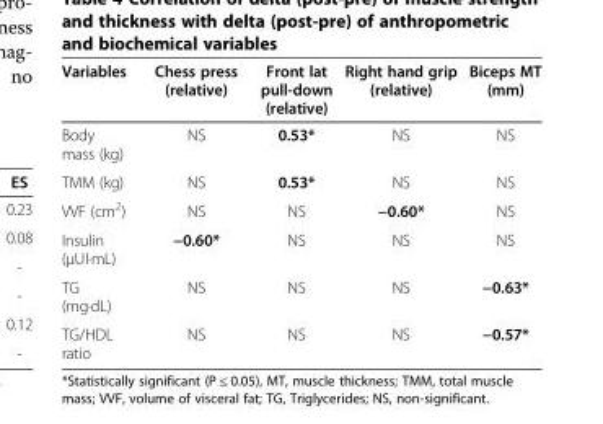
<table><thead><tr><td>Variables</td><td>Chess press (relative)</td><td>Front lat pull-down (relative)</td><td>Right hand grip (relative)</td><td>Biceps MT (mm)</td></tr></thead><tbody><tr><td>Body mass (kg)</td><td>NS</td><td>0.53*</td><td>NS</td><td>NS</td></tr><tr><td>TMM (kg)</td><td>NS</td><td>0.53*</td><td>NS</td><td>NS</td></tr><tr><td>VVF (cm<sup>2</sup>)</td><td>NS</td><td>NS</td><td>−0.60*</td><td>NS</td></tr><tr><td>Insulin (μUI·mL)</td><td>−0.60*</td><td>NS</td><td>NS</td><td>NS</td></tr><tr><td>TG (mg·dL)</td><td>NS</td><td>NS</td><td>NS</td><td>−0.63*</td></tr><tr><td>TG/HDL ratio</td><td>NS</td><td>NS</td><td>NS</td><td>−0.57*</td></tr></tbody></table>